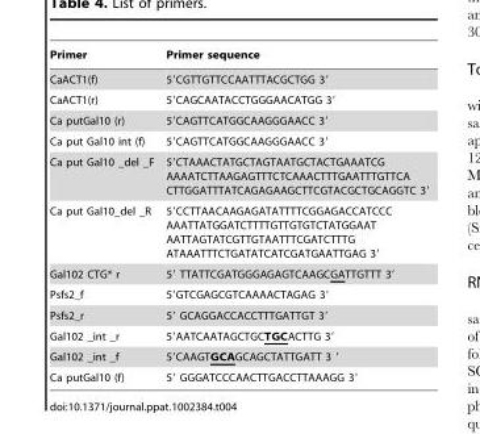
<table><thead><tr><td>Primer</td><td>Primer sequence</td></tr></thead><tbody><tr><td>CaACT1(f)</td><td>5′CGTTGTTCCAATTTACGCTGG 3′</td></tr><tr><td>CaACT1(r)</td><td>5′CAGCAATACCTGGGAACATGG 3′</td></tr><tr><td>Ca putGal10 (r)</td><td>5′CAGTTCATGGCAAGGGAACC 3′</td></tr><tr><td>Ca put Gal10 int (f)</td><td>5′CAGTTCATGGCAAGGGAACC 3′</td></tr><tr><td>Ca put Gal10 _del _F</td><td>5′CTAAACTATGCTAGTAATGCTACTGAAATCG AAAATCTTAAGAGTTTCTCAAACTTTGAATTTGTTCA CTTGGATTTATCAGAGAAGCTTCGTACGCTGCAGGTC 3′</td></tr><tr><td>Ca put Gal10_del _R</td><td>5′CCTTAACAAGAGATATTTTCGGAGACCATCCC AAATTATGGATCTTTTGTTGTGTCTATGGAAT AATTAGTATCGTTGTAATTTCGATCTTTG ATAAATTTCTGATATCATCGATGAATTGAG 3′</td></tr><tr><td>Gal102 CTG* r</td><td>5′ TTATTCGATGGGAGAGTCAAGCGATTGTTT 3′</td></tr><tr><td>Psfs2_f</td><td>5′GTCGAGCGTCAAAACTAGAG 3′</td></tr><tr><td>Psfs2_r</td><td>5′ GCAGGACCACCTTTGATTGT 3′</td></tr><tr><td>Gal102 _int _r</td><td>5′AATCAATAGCTGCTGCACTTG 3′</td></tr><tr><td>Gal102 _int _f</td><td>5′CAAGTGCAGCAGCTATTGATT 3 ′</td></tr><tr><td>Ca putGal10 (f)</td><td>5′ GGGATCCCAACTTGACCTTAAAGG 3′</td></tr></tbody></table>